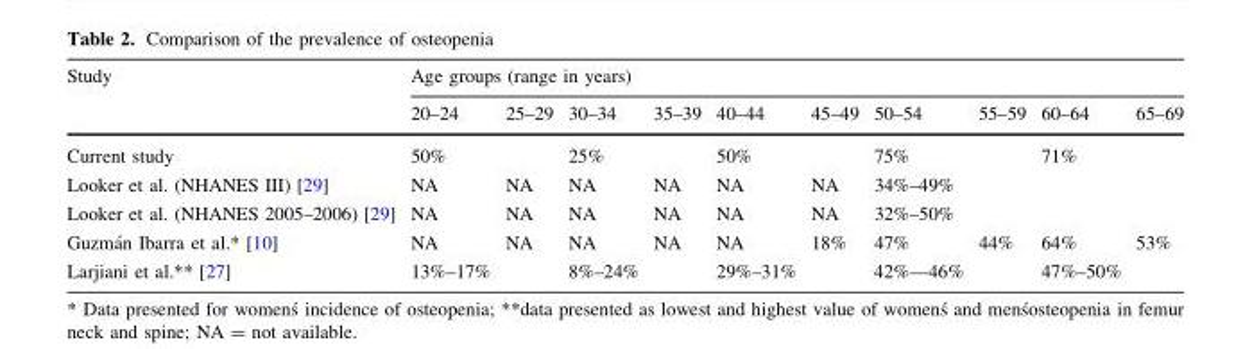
<table><thead><tr><td rowspan="2">Study</td><td colspan="10">Age groups (range in years)</td></tr><tr><td>20–24</td><td>25–29</td><td>30–34</td><td>35–39</td><td>40–44</td><td>45–49</td><td>50–54</td><td>55–59</td><td>60–64</td><td>65–69</td></tr></thead><tbody><tr><td>Current study</td><td>50%</td><td></td><td>25%</td><td></td><td>50%</td><td></td><td>75%</td><td></td><td>71%</td><td></td></tr><tr><td>Looker et al. (NHANES III) [29]</td><td>NA</td><td>NA</td><td>NA</td><td>NA</td><td>NA</td><td>NA</td><td>34%–49%</td><td></td><td></td><td></td></tr><tr><td>Looker et al. (NHANES 2005–2006) [29]</td><td>NA</td><td>NA</td><td>NA</td><td>NA</td><td>NA</td><td>NA</td><td>32%–50%</td><td></td><td></td><td></td></tr><tr><td>Guzma´n Ibarra et al.* [10]</td><td>NA</td><td>NA</td><td>NA</td><td>NA</td><td>NA</td><td>18%</td><td>47%</td><td>44%</td><td>64%</td><td>53%</td></tr><tr><td>Larjiani et al.** [27]</td><td>13%–17%</td><td></td><td>8%–24%</td><td></td><td>29%–31%</td><td></td><td>42%––46%</td><td></td><td>47%–50%</td><td></td></tr></tbody></table>